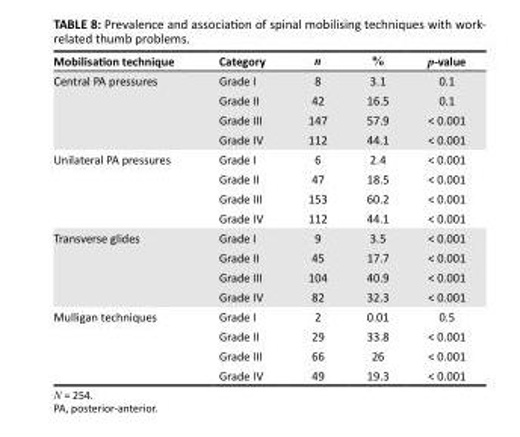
<table><thead><tr><td>Mobilisation technique</td><td>Category</td><td>n</td><td>%</td><td>p-value</td></tr></thead><tbody><tr><td rowspan="4">Central PA pressures</td><td>Grade I</td><td>8</td><td>3.1</td><td>0.1</td></tr><tr><td>Grade II</td><td>42</td><td>16.5</td><td>0.1</td></tr><tr><td>Grade III</td><td>147</td><td>57.9</td><td>&lt; 0.001</td></tr><tr><td>Grade IV</td><td>112</td><td>44.1</td><td>&lt; 0.001</td></tr><tr><td rowspan="4">Unilateral PA pressures</td><td>Grade I</td><td>6</td><td>2.4</td><td>&lt; 0.001</td></tr><tr><td>Grade II</td><td>47</td><td>18.5</td><td>&lt; 0.001</td></tr><tr><td>Grade III</td><td>153</td><td>60.2</td><td>&lt; 0.001</td></tr><tr><td>Grade IV</td><td>112</td><td>44.1</td><td>&lt; 0.001</td></tr><tr><td rowspan="4">Transverse glides</td><td>Grade I</td><td>9</td><td>3.5</td><td>&lt; 0.001</td></tr><tr><td>Grade II</td><td>45</td><td>17.7</td><td>&lt; 0.001</td></tr><tr><td>Grade III</td><td>104</td><td>40.9</td><td>&lt; 0.001</td></tr><tr><td>Grade IV</td><td>82</td><td>32.3</td><td>&lt; 0.001</td></tr><tr><td rowspan="4">Mulligan techniques</td><td>Grade I</td><td>2</td><td>0.01</td><td>0.5</td></tr><tr><td>Grade II</td><td>29</td><td>33.8</td><td>&lt; 0.001</td></tr><tr><td>Grade III</td><td>66</td><td>26</td><td>&lt; 0.001</td></tr><tr><td>Grade IV</td><td>49</td><td>19.3</td><td>&lt; 0.001</td></tr></tbody></table>